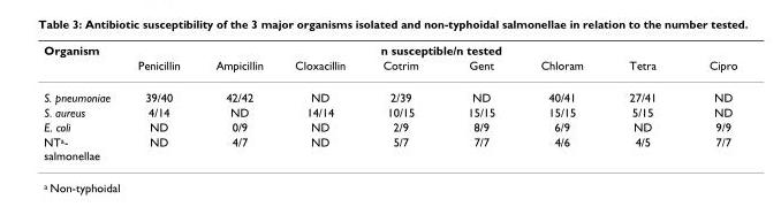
<table><thead><tr><td rowspan="2">Organism</td><td colspan="8">n susceptible/n tested</td></tr><tr><td>Penicillin</td><td>Ampicillin</td><td>Cloxacillin</td><td>Cotrim</td><td>Gent</td><td>Chloram</td><td>Tetra</td><td>Cipro</td></tr></thead><tbody><tr><td>S. pneumoniae</td><td>39/40</td><td>42/42</td><td>ND</td><td>2/39</td><td>ND</td><td>40/41</td><td>27/41</td><td>ND</td></tr><tr><td>S. aureus</td><td>4/14</td><td>ND</td><td>14/14</td><td>10/15</td><td>15/15</td><td>15/15</td><td>5/15</td><td>ND</td></tr><tr><td>E. coli</td><td>ND</td><td>0/9</td><td>ND</td><td>2/9</td><td>8/9</td><td>6/9</td><td>ND</td><td>9/9</td></tr><tr><td>NT<sup>a</sup>- salmonellae</td><td>ND</td><td>4/7</td><td>ND</td><td>5/7</td><td>7/7</td><td>4/6</td><td>4/5</td><td>7/7</td></tr></tbody></table>